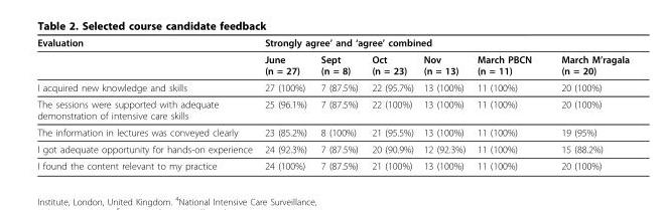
<table><thead><tr><td rowspan="2">Evaluation</td><td colspan="6">Strongly agree’ and ‘agree’ combined</td></tr><tr><td>June (n = 27)</td><td>Sept (n = 8)</td><td>Oct (n = 23)</td><td>Nov (n = 13)</td><td>March PBCN (n = 11)</td><td>March M’ragala (n = 20)</td></tr></thead><tbody><tr><td>I acquired new knowledge and skills</td><td>27 (100%)</td><td>7 (87.5%)</td><td>22 (95.7%)</td><td>13 (100%)</td><td>11 (100%)</td><td>20 (100%)</td></tr><tr><td>The sessions were supported with adequate demonstration of intensive care skills</td><td>25 (96.1%)</td><td>7 (87.5%)</td><td>22 (100%)</td><td>13 (100%)</td><td>11 (100%)</td><td>20 (100%)</td></tr><tr><td>The information in lectures was conveyed clearly</td><td>23 (85.2%)</td><td>8 (100%)</td><td>21 (95.5%)</td><td>13 (100%)</td><td>11 (100%)</td><td>19 (95%)</td></tr><tr><td>I got adequate opportunity for hands-on experience</td><td>24 (92.3%)</td><td>7 (87.5%)</td><td>20 (90.9%)</td><td>12 (92.3%)</td><td>11 (100%)</td><td>15 (88.2%)</td></tr><tr><td>I found the content relevant to my practice</td><td>24 (100%)</td><td>7 (87.5%)</td><td>21 (100%)</td><td>13 (100%)</td><td>11 (100%)</td><td>20 (100%)</td></tr></tbody></table>